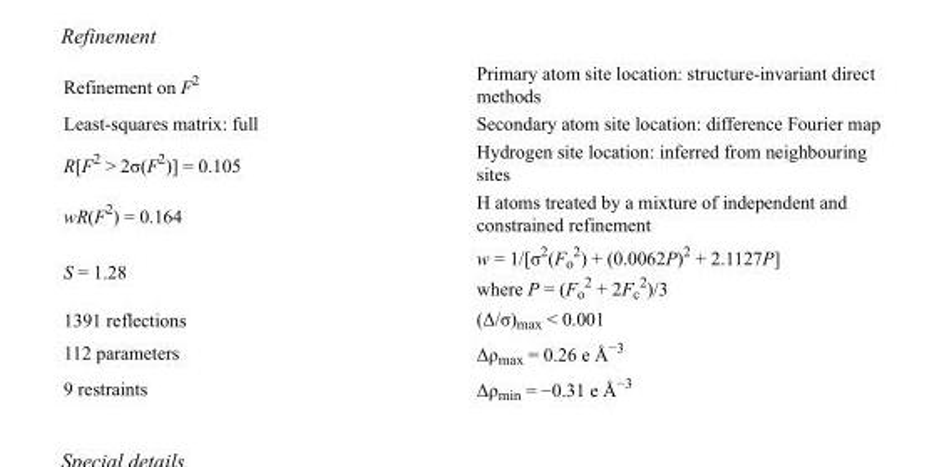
<table><tbody><tr><td>Refinement on F<sup>2</sup></td><td>Primary atom site location: structure-invariant direct methods</td></tr><tr><td>Least-squares matrix: full</td><td>Secondary atom site location: difference Fourier map</td></tr><tr><td>R[F<sup>2</sup> &gt; 2σ(F<sup>2</sup>)] = 0.105</td><td>Hydrogen site location: inferred from neighbouring sites</td></tr><tr><td>wR(F<sup>2</sup>) = 0.164</td><td>H atoms treated by a mixture of independent and constrained refinement</td></tr><tr><td>S = 1.28</td><td>w = 1/[σ<sup>2</sup>(F<sub>o</sub> <sup>2</sup>) + (0.0062P)<sup>2</sup> + 2.1127P] where P = (F<sub>o</sub> <sup>2</sup> + 2F<sub>c</sub> <sup>2</sup>)/3</td></tr><tr><td>1391 reflections</td><td>(Δ/σ)<sub>max</sub> &lt; 0.001</td></tr><tr><td>112 parameters</td><td>Δρ<sub>max</sub> = 0.26 e Å<sup>−3</sup></td></tr><tr><td>9 restraints</td><td>Δρ<sub>min</sub> = −0.31 e Å<sup>−3</sup></td></tr></tbody></table>